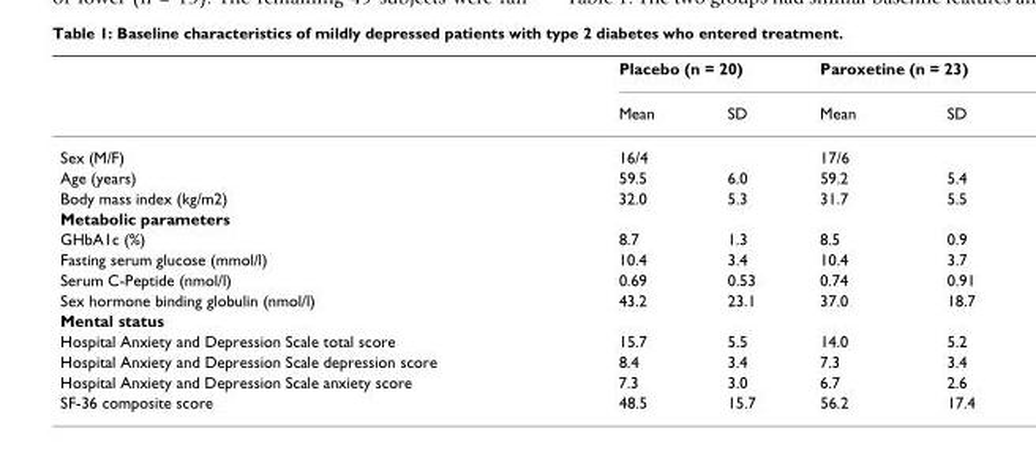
<table><thead><tr><td rowspan="2"></td><td colspan="2">Placebo (n = 20)</td><td colspan="2">Paroxetine (n = 23)</td></tr><tr><td>Mean</td><td>SD</td><td>Mean</td><td>SD</td></tr></thead><tbody><tr><td>Sex (M/F)</td><td>16/4</td><td></td><td>17/6</td><td></td></tr><tr><td>Age (years)</td><td>59.5</td><td>6.0</td><td>59.2</td><td>5.4</td></tr><tr><td>Body mass index (kg/m2)</td><td>32.0</td><td>5.3</td><td>31.7</td><td>5.5</td></tr><tr><td colspan="5">Metabolic parameters</td></tr><tr><td>GHbA1c (%)</td><td>8.7</td><td>1.3</td><td>8.5</td><td>0.9</td></tr><tr><td>Fasting serum glucose (mmol/l)</td><td>10.4</td><td>3.4</td><td>10.4</td><td>3.7</td></tr><tr><td>Serum C-Peptide (nmol/l)</td><td>0.69</td><td>0.53</td><td>0.74</td><td>0.91</td></tr><tr><td>Sex hormone binding globulin (nmol/l)</td><td>43.2</td><td>23.1</td><td>37.0</td><td>18.7</td></tr><tr><td colspan="5">Mental status</td></tr><tr><td>Hospital Anxiety and Depression Scale total score</td><td>15.7</td><td>5.5</td><td>14.0</td><td>5.2</td></tr><tr><td>Hospital Anxiety and Depression Scale depression score</td><td>8.4</td><td>3.4</td><td>7.3</td><td>3.4</td></tr><tr><td>Hospital Anxiety and Depression Scale anxiety score</td><td>7.3</td><td>3.0</td><td>6.7</td><td>2.6</td></tr><tr><td>SF-36 composite score</td><td>48.5</td><td>15.7</td><td>56.2</td><td>17.4</td></tr></tbody></table>